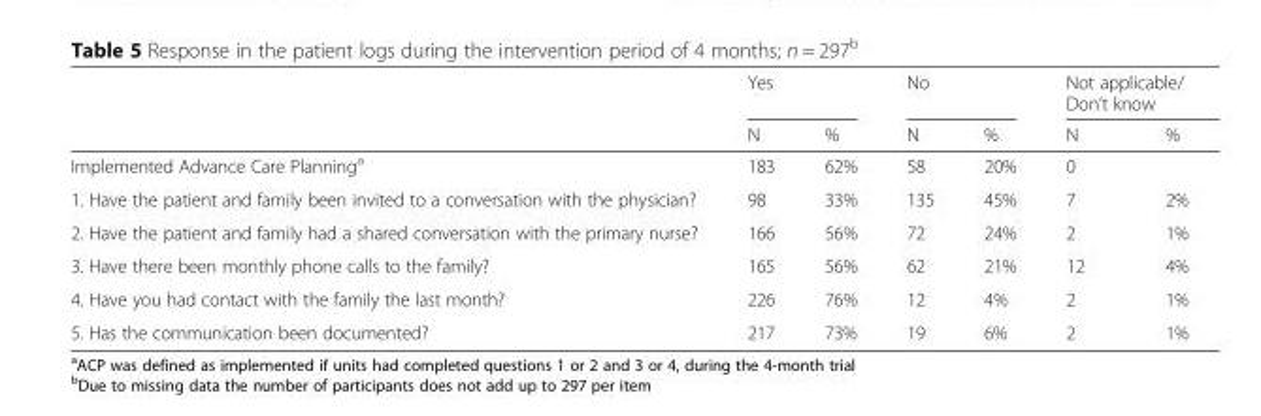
<table><thead><tr><td rowspan="2"></td><td colspan="2">Yes</td><td colspan="2">No</td><td colspan="2">Not applicable/ Don’t know</td></tr><tr><td>N</td><td>%</td><td>N</td><td>%</td><td>N</td><td>%</td></tr></thead><tbody><tr><td>Implemented Advance Care Planning<sup>a</sup></td><td>183</td><td>62%</td><td>58</td><td>20%</td><td>0</td><td></td></tr><tr><td>1. Have the patient and family been invited to a conversation with the physician?</td><td>98</td><td>33%</td><td>135</td><td>45%</td><td>7</td><td>2%</td></tr><tr><td>2. Have the patient and family had a shared conversation with the primary nurse?</td><td>166</td><td>56%</td><td>72</td><td>24%</td><td>2</td><td>1%</td></tr><tr><td>3. Have there been monthly phone calls to the family?</td><td>165</td><td>56%</td><td>62</td><td>21%</td><td>12</td><td>4%</td></tr><tr><td>4. Have you had contact with the family the last month?</td><td>226</td><td>76%</td><td>12</td><td>4%</td><td>2</td><td>1%</td></tr><tr><td>5. Has the communication been documented?</td><td>217</td><td>73%</td><td>19</td><td>6%</td><td>2</td><td>1%</td></tr></tbody></table>